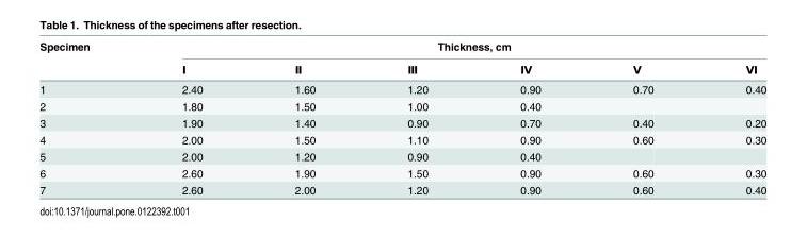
<table><thead><tr><td rowspan="2">Specimen</td><td colspan="6">Thickness, cm</td></tr><tr><td>Ⅰ</td><td>Ⅱ</td><td>Ⅲ</td><td>Ⅳ</td><td>Ⅴ</td><td>Ⅵ</td></tr></thead><tbody><tr><td>1</td><td>2.40</td><td>1.60</td><td>1.20</td><td>0.90</td><td>0.70</td><td>0.40</td></tr><tr><td>2</td><td>1.80</td><td>1.50</td><td>1.00</td><td>0.40</td><td></td><td></td></tr><tr><td>3</td><td>1.90</td><td>1.40</td><td>0.90</td><td>0.70</td><td>0.40</td><td>0.20</td></tr><tr><td>4</td><td>2.00</td><td>1.50</td><td>1.10</td><td>0.90</td><td>0.60</td><td>0.30</td></tr><tr><td>5</td><td>2.00</td><td>1.20</td><td>0.90</td><td>0.40</td><td></td><td></td></tr><tr><td>6</td><td>2.60</td><td>1.90</td><td>1.50</td><td>0.90</td><td>0.60</td><td>0.30</td></tr><tr><td>7</td><td>2.60</td><td>2.00</td><td>1.20</td><td>0.90</td><td>0.60</td><td>0.40</td></tr></tbody></table>